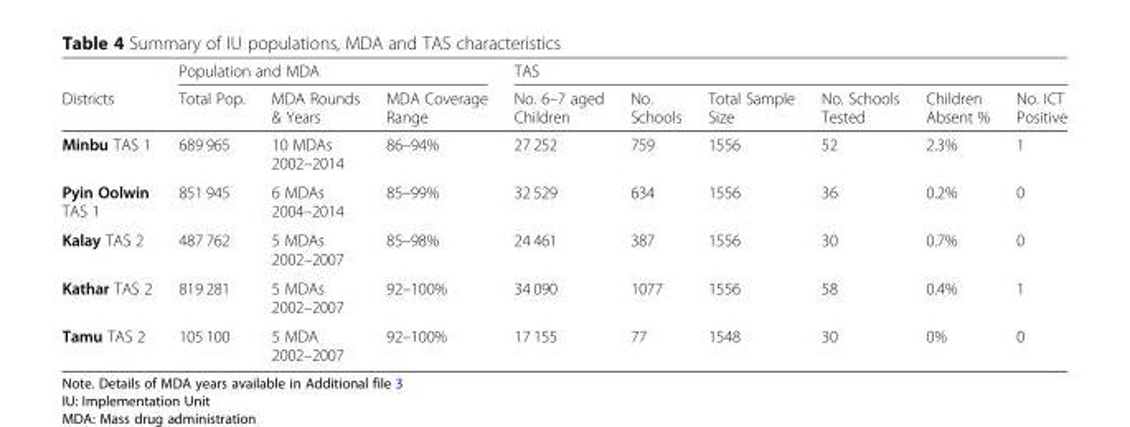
<table><thead><tr><td rowspan="2">Districts</td><td colspan="3">Population and MDA</td><td colspan="6">TAS</td></tr><tr><td>Total Pop.</td><td>MDA Rounds &amp; Years</td><td>MDA Coverage Range</td><td>No. 6–7 aged Children</td><td>No. Schools</td><td>Total Sample Size</td><td>No. Schools Tested</td><td>Children Absent %</td><td>No. ICT Positive</td></tr></thead><tbody><tr><td>Minbu TAS 1</td><td>689 965</td><td>10 MDAs 2002–2014</td><td>86–94%</td><td>27 252</td><td>759</td><td>1556</td><td>52</td><td>2.3%</td><td>1</td></tr><tr><td>Pyin Oolwin TAS 1</td><td>851 945</td><td>6 MDAs 2004–2014</td><td>85–99%</td><td>32 529</td><td>634</td><td>1556</td><td>36</td><td>0.2%</td><td>0</td></tr><tr><td>Kalay TAS 2</td><td>487 762</td><td>5 MDAs 2002–2007</td><td>85–98%</td><td>24 461</td><td>387</td><td>1556</td><td>30</td><td>0.7%</td><td>0</td></tr><tr><td>Kathar TAS 2</td><td>819 281</td><td>5 MDAs 2002–2007</td><td>92–100%</td><td>34 090</td><td>1077</td><td>1556</td><td>58</td><td>0.4%</td><td>1</td></tr><tr><td>Tamu TAS 2</td><td>105 100</td><td>5 MDA 2002–2007</td><td>92–100%</td><td>17 155</td><td>77</td><td>1548</td><td>30</td><td>0%</td><td>0</td></tr></tbody></table>